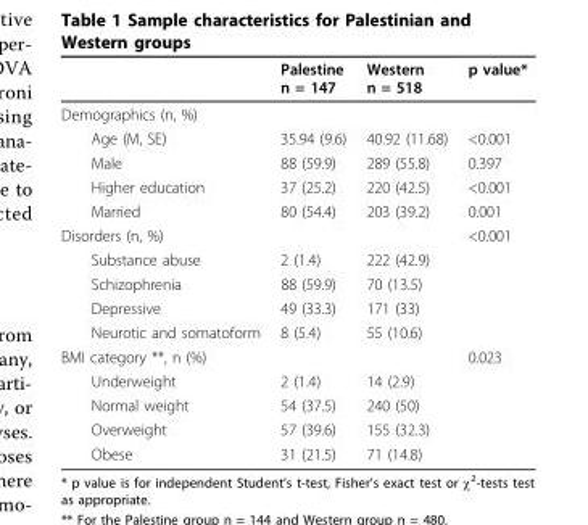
<table><thead><tr><td></td><td>Palestine n = 147</td><td>Western n = 518</td><td>p value*</td></tr></thead><tbody><tr><td colspan="4">Demographics (n, %)</td></tr><tr><td>Age (M, SE)</td><td>35.94 (9.6)</td><td>40.92 (11.68)</td><td>&lt;0.001</td></tr><tr><td>Male</td><td>88 (59.9)</td><td>289 (55.8)</td><td>0.397</td></tr><tr><td>Higher education</td><td>37 (25.2)</td><td>220 (42.5)</td><td>&lt;0.001</td></tr><tr><td>Married</td><td>80 (54.4)</td><td>203 (39.2)</td><td>0.001</td></tr><tr><td>Disorders (n, %)</td><td></td><td></td><td>&lt;0.001</td></tr><tr><td>Substance abuse</td><td>2 (1.4)</td><td>222 (42.9)</td><td></td></tr><tr><td>Schizophrenia</td><td>88 (59.9)</td><td>70 (13.5)</td><td></td></tr><tr><td>Depressive</td><td>49 (33.3)</td><td>171 (33)</td><td></td></tr><tr><td>Neurotic and somatoform</td><td>8 (5.4)</td><td>55 (10.6)</td><td></td></tr><tr><td>BMI category **, n (%)</td><td></td><td></td><td>0.023</td></tr><tr><td>Underweight</td><td>2 (1.4)</td><td>14 (2.9)</td><td></td></tr><tr><td>Normal weight</td><td>54 (37.5)</td><td>240 (50)</td><td></td></tr><tr><td>Overweight</td><td>57 (39.6)</td><td>155 (32.3)</td><td></td></tr><tr><td>Obese</td><td>31 (21.5)</td><td>71 (14.8)</td><td></td></tr></tbody></table>